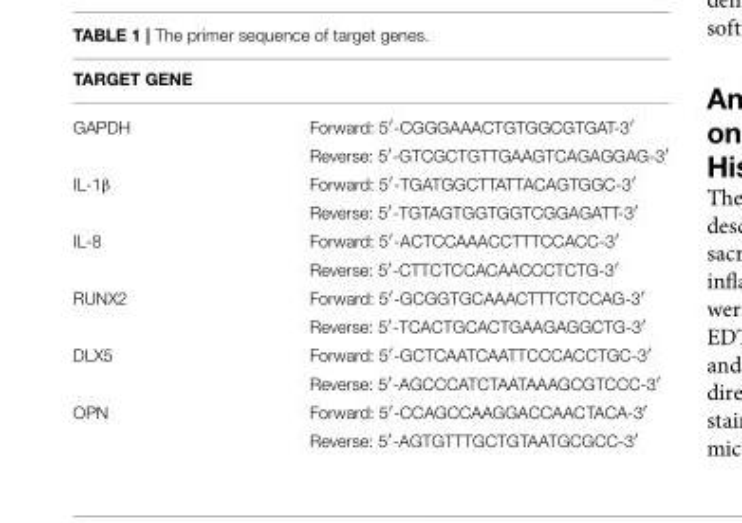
<table><thead><tr><td>TARGET GENE</td><td></td></tr></thead><tbody><tr><td rowspan="2">GAPDH</td><td>Forward: 5′-CGGGAAACTGTGGCGTGAT-3′</td></tr><tr><td>Reverse: 5′-GTCGCTGTTGAAGTCAGAGGAG-3′</td></tr><tr><td rowspan="2">IL-1β</td><td>Forward: 5′-TGATGGCTTATTACAGTGGC-3′</td></tr><tr><td>Reverse: 5′-TGTAGTGGTGGTCGGAGATT-3′</td></tr><tr><td rowspan="2">IL-8</td><td>Forward: 5′-ACTCCAAACCTTTCCACC-3′</td></tr><tr><td>Reverse: 5′-CTTCTCCACAACCCTCTG-3′</td></tr><tr><td rowspan="2">RUNX2</td><td>Forward: 5′-GCGGTGCAAACTTTCTCCAG-3′</td></tr><tr><td>Reverse: 5′-TCACTGCACTGAAGAGGCTG-3′</td></tr><tr><td rowspan="2">DLX5</td><td>Forward: 5′-GCTCAATCAATTCCCACCTGC-3′</td></tr><tr><td>Reverse: 5′-AGCCCATCTAATAAAGCGTCCC-3′</td></tr><tr><td rowspan="2">OPN</td><td>Forward: 5′-CCAGCCAAGGACCAACTACA-3′</td></tr><tr><td>Reverse: 5′-AGTGTTTGCTGTAATGCGCC-3′</td></tr></tbody></table>